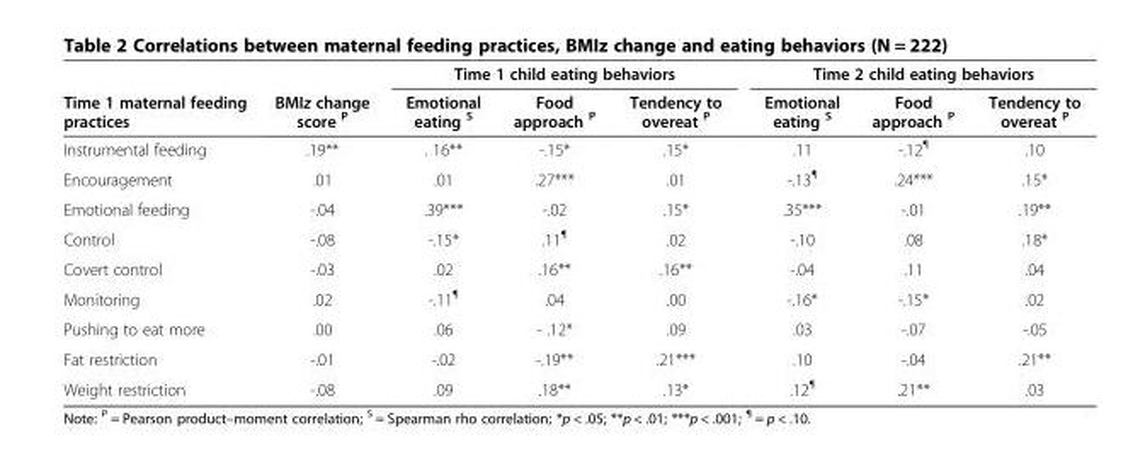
<table><thead><tr><td rowspan="2">Time 1 maternal feeding practices</td><td rowspan="2">BMIz change score <sup>P</sup></td><td colspan="3">Time 1 child eating behaviors</td><td colspan="3">Time 2 child eating behaviors</td></tr><tr><td>Emotional eating <sup>S</sup></td><td>Food approach <sup>P</sup></td><td>Tendency to overeat <sup>P</sup></td><td>Emotional eating <sup>S</sup></td><td>Food approach <sup>P</sup></td><td>Tendency to overeat <sup>P</sup></td></tr></thead><tbody><tr><td>Instrumental feeding</td><td>.19**</td><td>. 16**</td><td>-.15*</td><td>.15*</td><td>.11</td><td>-.12<sup>¶</sup></td><td>.10</td></tr><tr><td>Encouragement</td><td>.01</td><td>.01</td><td>.27***</td><td>.01</td><td>-.13<sup>¶</sup></td><td>.24***</td><td>.15*</td></tr><tr><td>Emotional feeding</td><td>-.04</td><td>.39***</td><td>-.02</td><td>.15*</td><td>.35***</td><td>-.01</td><td>.19**</td></tr><tr><td>Control</td><td>-.08</td><td>-.15*</td><td>.11<sup>¶</sup></td><td>.02</td><td>-.10</td><td>.08</td><td>.18*</td></tr><tr><td>Covert control</td><td>-.03</td><td>.02</td><td>.16**</td><td>.16**</td><td>-.04</td><td>.11</td><td>.04</td></tr><tr><td>Monitoring</td><td>.02</td><td>-.11<sup>¶</sup></td><td>.04</td><td>.00</td><td>-.16*</td><td>-.15*</td><td>.02</td></tr><tr><td>Pushing to eat more</td><td>.00</td><td>.06</td><td>- .12*</td><td>.09</td><td>.03</td><td>-.07</td><td>-.05</td></tr><tr><td>Fat restriction</td><td>-.01</td><td>-.02</td><td>-.19**</td><td>.21***</td><td>.10</td><td>-.04</td><td>.21**</td></tr><tr><td>Weight restriction</td><td>-.08</td><td>.09</td><td>.18**</td><td>.13*</td><td>.12<sup>¶</sup></td><td>.21**</td><td>.03</td></tr></tbody></table>